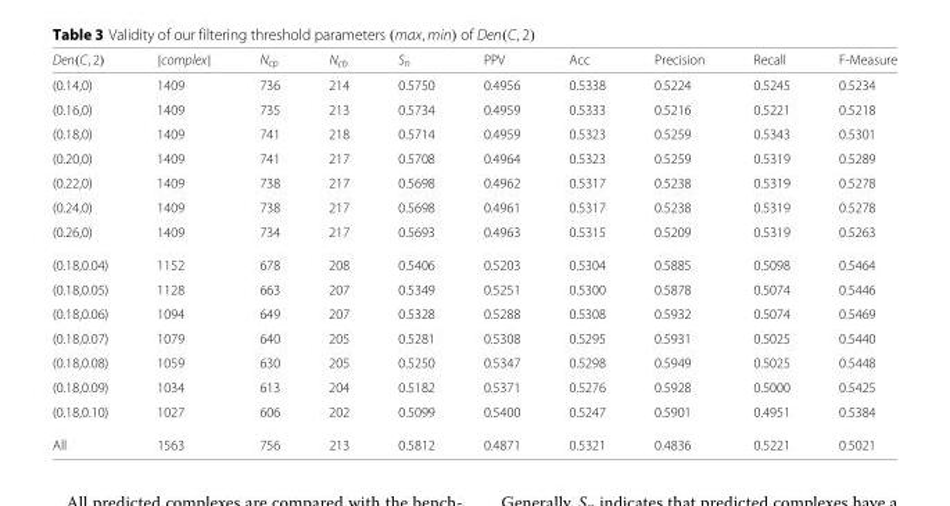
<table><thead><tr><td>Den(C, 2)</td><td>|complex|</td><td>N<sub>cp</sub></td><td>N<sub>cb</sub></td><td>S<sub>n</sub></td><td>PPV</td><td>Acc</td><td>Precision</td><td>Recall</td><td>F-Measure</td></tr></thead><tbody><tr><td>(0.14,0)</td><td>1409</td><td>736</td><td>214</td><td>0.5750</td><td>0.4956</td><td>0.5338</td><td>0.5224</td><td>0.5245</td><td>0.5234</td></tr><tr><td>(0.16,0)</td><td>1409</td><td>735</td><td>213</td><td>0.5734</td><td>0.4959</td><td>0.5333</td><td>0.5216</td><td>0.5221</td><td>0.5218</td></tr><tr><td>(0.18,0)</td><td>1409</td><td>741</td><td>218</td><td>0.5714</td><td>0.4959</td><td>0.5323</td><td>0.5259</td><td>0.5343</td><td>0.5301</td></tr><tr><td>(0.20,0)</td><td>1409</td><td>741</td><td>217</td><td>0.5708</td><td>0.4964</td><td>0.5323</td><td>0.5259</td><td>0.5319</td><td>0.5289</td></tr><tr><td>(0.22,0)</td><td>1409</td><td>738</td><td>217</td><td>0.5698</td><td>0.4962</td><td>0.5317</td><td>0.5238</td><td>0.5319</td><td>0.5278</td></tr><tr><td>(0.24,0)</td><td>1409</td><td>738</td><td>217</td><td>0.5698</td><td>0.4961</td><td>0.5317</td><td>0.5238</td><td>0.5319</td><td>0.5278</td></tr><tr><td>(0.26,0)</td><td>1409</td><td>734</td><td>217</td><td>0.5693</td><td>0.4963</td><td>0.5315</td><td>0.5209</td><td>0.5319</td><td>0.5263</td></tr><tr><td>(0.18,0.04)</td><td>1152</td><td>678</td><td>208</td><td>0.5406</td><td>0.5203</td><td>0.5304</td><td>0.5885</td><td>0.5098</td><td>0.5464</td></tr><tr><td>(0.18,0.05)</td><td>1128</td><td>663</td><td>207</td><td>0.5349</td><td>0.5251</td><td>0.5300</td><td>0.5878</td><td>0.5074</td><td>0.5446</td></tr><tr><td>(0.18,0.06)</td><td>1094</td><td>649</td><td>207</td><td>0.5328</td><td>0.5288</td><td>0.5308</td><td>0.5932</td><td>0.5074</td><td>0.5469</td></tr><tr><td>(0.18,0.07)</td><td>1079</td><td>640</td><td>205</td><td>0.5281</td><td>0.5308</td><td>0.5295</td><td>0.5931</td><td>0.5025</td><td>0.5440</td></tr><tr><td>(0.18,0.08)</td><td>1059</td><td>630</td><td>205</td><td>0.5250</td><td>0.5347</td><td>0.5298</td><td>0.5949</td><td>0.5025</td><td>0.5448</td></tr><tr><td>(0.18,0.09)</td><td>1034</td><td>613</td><td>204</td><td>0.5182</td><td>0.5371</td><td>0.5276</td><td>0.5928</td><td>0.5000</td><td>0.5425</td></tr><tr><td>(0.18,0.10)</td><td>1027</td><td>606</td><td>202</td><td>0.5099</td><td>0.5400</td><td>0.5247</td><td>0.5901</td><td>0.4951</td><td>0.5384</td></tr><tr><td>All</td><td>1563</td><td>756</td><td>213</td><td>0.5812</td><td>0.4871</td><td>0.5321</td><td>0.4836</td><td>0.5221</td><td>0.5021</td></tr></tbody></table>